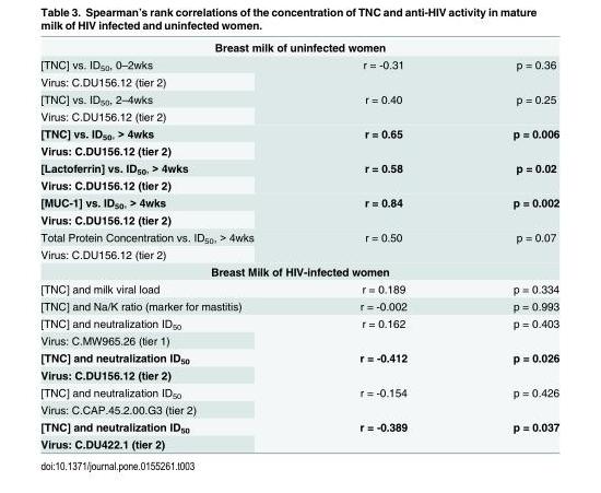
<table><tbody><tr><td colspan="3">Breast milk of uninfected women</td></tr><tr><td>[TNC] vs. ID<sub>50</sub>, 0–2wks</td><td rowspan="2">r = -0.31</td><td rowspan="2">p = 0.36</td></tr><tr><td>Virus: C.DU156.12 (tier 2)</td></tr><tr><td>[TNC] vs. ID<sub>50</sub>, 2–4wks</td><td rowspan="2">r = 0.40</td><td rowspan="2">p = 0.25</td></tr><tr><td>Virus: C.DU156.12 (tier 2)</td></tr><tr><td>[TNC] vs. ID<sub>50</sub>, &gt; 4wks</td><td rowspan="2">r = 0.65</td><td rowspan="2">p = 0.006</td></tr><tr><td>Virus: C.DU156.12 (tier 2)</td></tr><tr><td>[Lactoferrin] vs. ID<sub>50</sub>, &gt; 4wks</td><td rowspan="2">r = 0.58</td><td rowspan="2">p = 0.02</td></tr><tr><td>Virus: C.DU156.12 (tier 2)</td></tr><tr><td>[MUC-1] vs. ID<sub>50</sub>, &gt; 4wks</td><td rowspan="2">r = 0.84</td><td rowspan="2">p = 0.002</td></tr><tr><td>Virus: C.DU156.12 (tier 2)</td></tr><tr><td>Total Protein Concentration vs. ID<sub>50</sub>, &gt; 4wks</td><td rowspan="2">r = 0.50</td><td rowspan="2">p = 0.07</td></tr><tr><td>Virus: C.DU156.12 (tier 2)</td></tr><tr><td colspan="3">Breast Milk of HIV-infected women</td></tr><tr><td>[TNC] and milk viral load</td><td>r = 0.189</td><td>p = 0.334</td></tr><tr><td>[TNC] and Na/K ratio (marker for mastitis)</td><td>r = -0.002</td><td>p = 0.993</td></tr><tr><td>[TNC] and neutralization ID<sub>50</sub></td><td rowspan="2">r = 0.162</td><td rowspan="2">p = 0.403</td></tr><tr><td>Virus: C.MW965.26 (tier 1)</td></tr><tr><td>[TNC] and neutralization ID<sub>50</sub></td><td rowspan="2">r = -0.412</td><td rowspan="2">p = 0.026</td></tr><tr><td>Virus: C.DU156.12 (tier 2)</td></tr><tr><td>[TNC] and neutralization ID<sub>50</sub></td><td rowspan="2">r = -0.154</td><td rowspan="2">p = 0.426</td></tr><tr><td>Virus: C.CAP.45.2.00.G3 (tier 2)</td></tr><tr><td>[TNC] and neutralization ID<sub>50</sub></td><td rowspan="2">r = -0.389</td><td rowspan="2">p = 0.037</td></tr><tr><td>Virus: C.DU422.1 (tier 2)</td></tr></tbody></table>